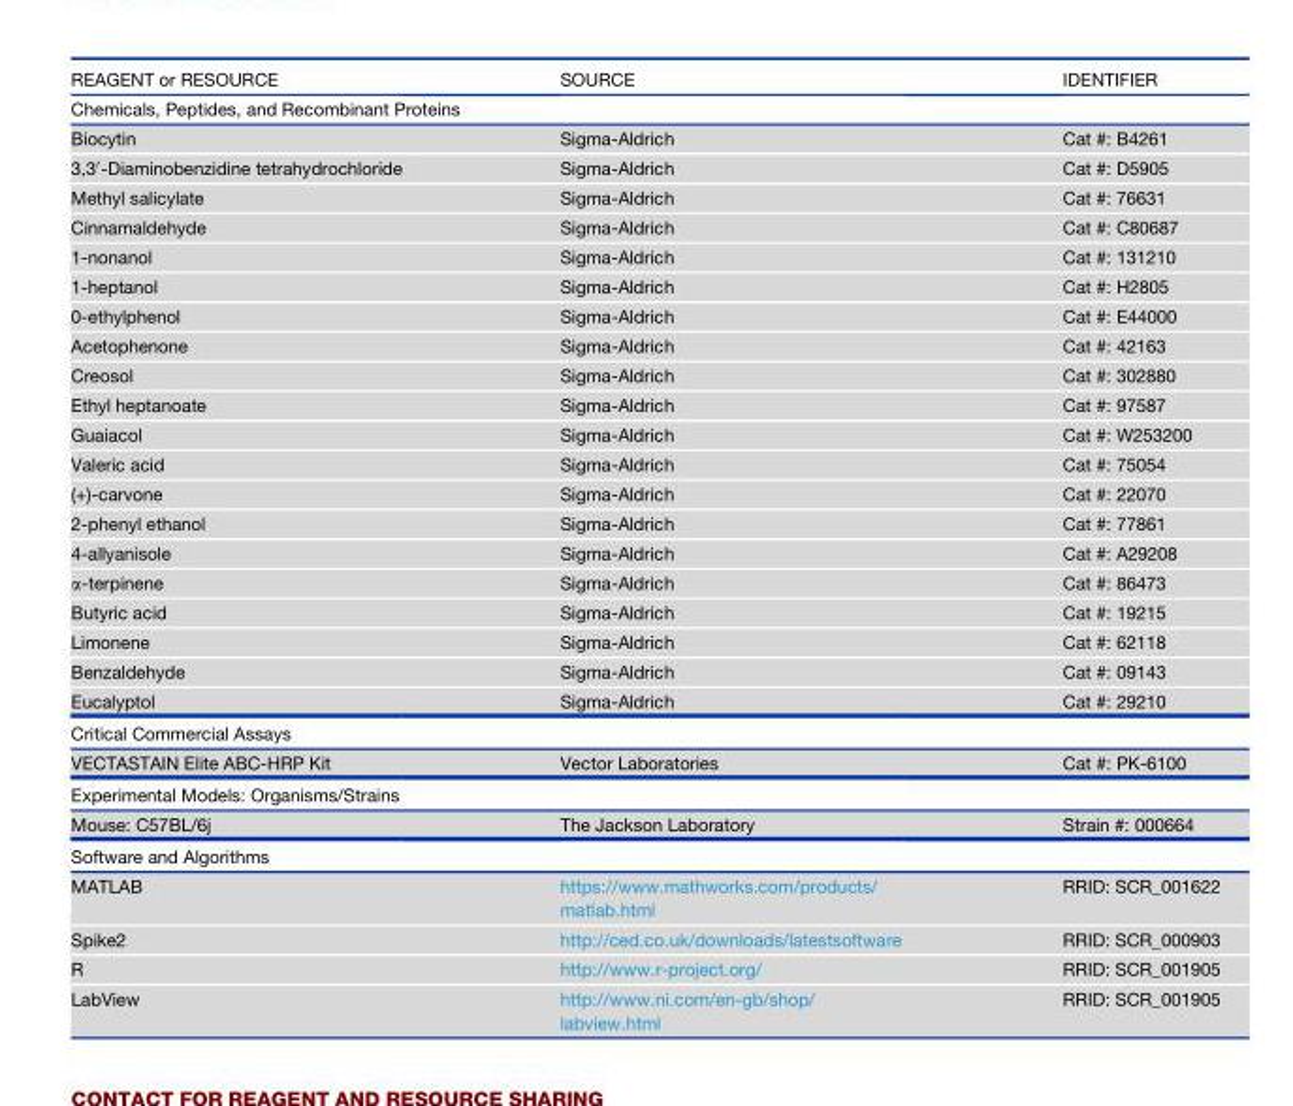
<table><thead><tr><td>REAGENT or RESOURCE</td><td>SOURCE</td><td>IDENTIFIER</td></tr></thead><tbody><tr><td colspan="3">Chemicals, Peptides, and Recombinant Proteins</td></tr><tr><td>Biocytin</td><td>Sigma-Aldrich</td><td>Cat #: B4261</td></tr><tr><td>3,3′-Diaminobenzidine tetrahydrochloride</td><td>Sigma-Aldrich</td><td>Cat #: D5905</td></tr><tr><td>Methyl salicylate</td><td>Sigma-Aldrich</td><td>Cat #: 76631</td></tr><tr><td>Cinnamaldehyde</td><td>Sigma-Aldrich</td><td>Cat #: C80687</td></tr><tr><td>1-nonanol</td><td>Sigma-Aldrich</td><td>Cat #: 131210</td></tr><tr><td>1-heptanol</td><td>Sigma-Aldrich</td><td>Cat #: H2805</td></tr><tr><td>0-ethylphenol</td><td>Sigma-Aldrich</td><td>Cat #: E44000</td></tr><tr><td>Acetophenone</td><td>Sigma-Aldrich</td><td>Cat #: 42163</td></tr><tr><td>Creosol</td><td>Sigma-Aldrich</td><td>Cat #: 302880</td></tr><tr><td>Ethyl heptanoate</td><td>Sigma-Aldrich</td><td>Cat #: 97587</td></tr><tr><td>Guaiacol</td><td>Sigma-Aldrich</td><td>Cat #: W253200</td></tr><tr><td>Valeric acid</td><td>Sigma-Aldrich</td><td>Cat #: 75054</td></tr><tr><td>(+)-carvone</td><td>Sigma-Aldrich</td><td>Cat #: 22070</td></tr><tr><td>2-phenyl ethanol</td><td>Sigma-Aldrich</td><td>Cat #: 77861</td></tr><tr><td>4-allyanisole</td><td>Sigma-Aldrich</td><td>Cat #: A29208</td></tr><tr><td>α-terpinene</td><td>Sigma-Aldrich</td><td>Cat #: 86473</td></tr><tr><td>Butyric acid</td><td>Sigma-Aldrich</td><td>Cat #: 19215</td></tr><tr><td>Limonene</td><td>Sigma-Aldrich</td><td>Cat #: 62118</td></tr><tr><td>Benzaldehyde</td><td>Sigma-Aldrich</td><td>Cat #: 09143</td></tr><tr><td>Eucalyptol</td><td>Sigma-Aldrich</td><td>Cat #: 29210</td></tr><tr><td colspan="3">Critical Commercial Assays</td></tr><tr><td>VECTASTAIN Elite ABC-HRP Kit</td><td>Vector Laboratories</td><td>Cat #: PK-6100</td></tr><tr><td colspan="3">Experimental Models: Organisms/Strains</td></tr><tr><td>Mouse: C57BL/6j</td><td>The Jackson Laboratory</td><td>Strain #: 000664</td></tr><tr><td colspan="3">Software and Algorithms</td></tr><tr><td>MATLAB</td><td>https://www.mathworks.com/products/ matlab.html</td><td>RRID: SCR_001622</td></tr><tr><td>Spike2</td><td>http://ced.co.uk/downloads/latestsoftware</td><td>RRID: SCR_000903</td></tr><tr><td>R</td><td>http://www.r-project.org/</td><td>RRID: SCR_001905</td></tr><tr><td>LabView</td><td>http://www.ni.com/en-gb/shop/ labview.html</td><td>RRID: SCR_001905</td></tr></tbody></table>